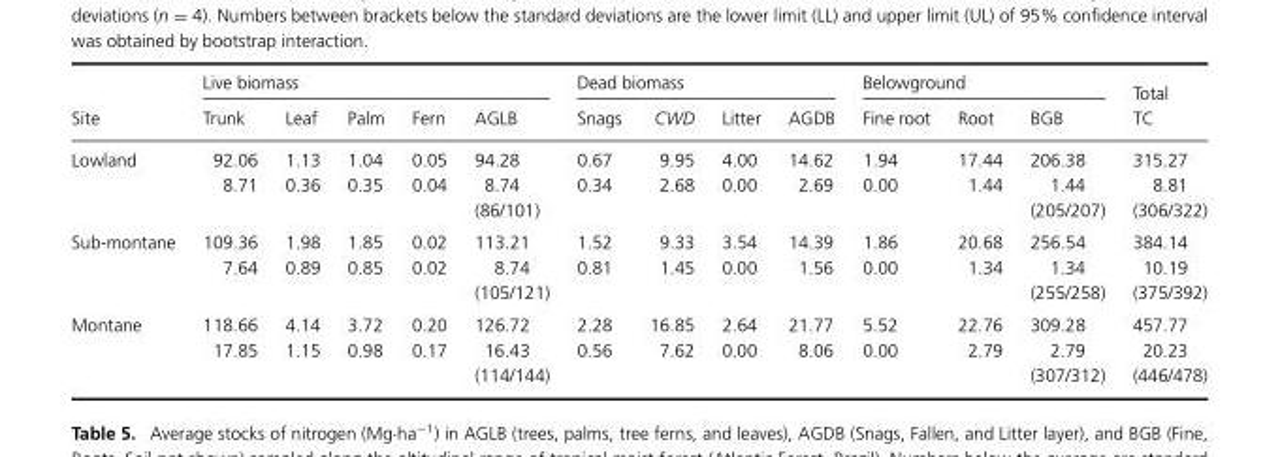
<table><thead><tr><td rowspan="2">Site</td><td colspan="5">Live biomass</td><td colspan="4">Dead biomass</td><td colspan="3">Belowground</td><td rowspan="2">Total TC</td></tr><tr><td>Trunk</td><td>Leaf</td><td>Palm</td><td>Fern</td><td>AGLB</td><td>Snags</td><td>CWD</td><td>Litter</td><td>AGDB</td><td>Fine root</td><td>Root</td><td>BGB</td></tr></thead><tbody><tr><td rowspan="3">Lowland</td><td>92.06</td><td>1.13</td><td>1.04</td><td>0.05</td><td>94.28</td><td>0.67</td><td>9.95</td><td>4.00</td><td>14.62</td><td>1.94</td><td>17.44</td><td>206.38</td><td>315.27</td></tr><tr><td>8.71</td><td>0.36</td><td>0.35</td><td>0.04</td><td>8.74</td><td>0.34</td><td>2.68</td><td>0.00</td><td>2.69</td><td>0.00</td><td>1.44</td><td>1.44</td><td>8.81</td></tr><tr><td></td><td></td><td></td><td></td><td>(86/101)</td><td></td><td></td><td></td><td></td><td></td><td></td><td>(205/207)</td><td>(306/322)</td></tr><tr><td rowspan="3">Sub-montane</td><td>109.36</td><td>1.98</td><td>1.85</td><td>0.02</td><td>113.21</td><td>1.52</td><td>9.33</td><td>3.54</td><td>14.39</td><td>1.86</td><td>20.68</td><td>256.54</td><td>384.14</td></tr><tr><td>7.64</td><td>0.89</td><td>0.85</td><td>0.02</td><td>8.74</td><td>0.81</td><td>1.45</td><td>0.00</td><td>1.56</td><td>0.00</td><td>1.34</td><td>1.34</td><td>10.19</td></tr><tr><td></td><td></td><td></td><td></td><td>(105/121)</td><td></td><td></td><td></td><td></td><td></td><td></td><td>(255/258)</td><td>(375/392)</td></tr><tr><td rowspan="3">Montane</td><td>118.66</td><td>4.14</td><td>3.72</td><td>0.20</td><td>126.72</td><td>2.28</td><td>16.85</td><td>2.64</td><td>21.77</td><td>5.52</td><td>22.76</td><td>309.28</td><td>457.77</td></tr><tr><td>17.85</td><td>1.15</td><td>0.98</td><td>0.17</td><td>16.43</td><td>0.56</td><td>7.62</td><td>0.00</td><td>8.06</td><td>0.00</td><td>2.79</td><td>2.79</td><td>20.23</td></tr><tr><td></td><td></td><td></td><td></td><td>(114/144)</td><td></td><td></td><td></td><td></td><td></td><td></td><td>(307/312)</td><td>(446/478)</td></tr></tbody></table>